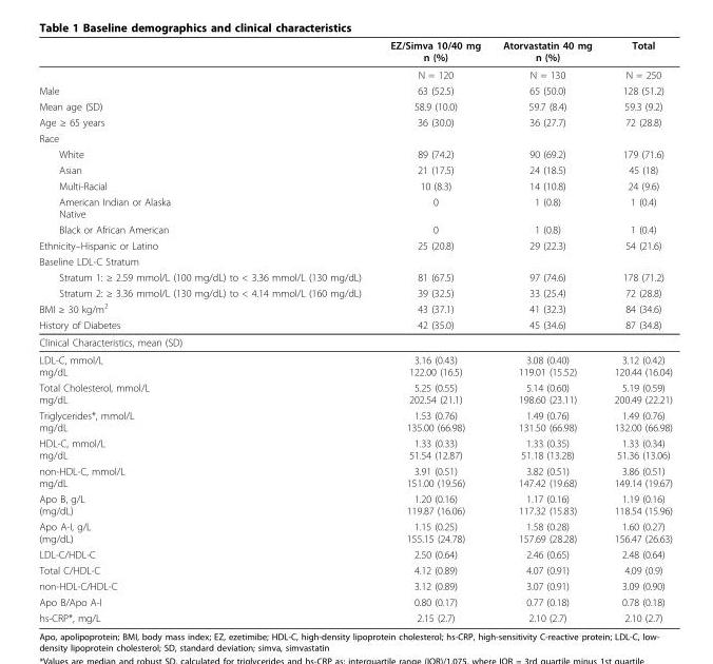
<table><thead><tr><td></td><td>EZ/Simva 10/40 mg n (%)</td><td>Atorvastatin 40 mg n (%)</td><td>Total</td></tr></thead><tbody><tr><td></td><td>N = 120</td><td>N = 130</td><td>N = 250</td></tr><tr><td>Male</td><td>63 (52.5)</td><td>65 (50.0)</td><td>128 (51.2)</td></tr><tr><td>Mean age (SD)</td><td>58.9 (10.0)</td><td>59.7 (8.4)</td><td>59.3 (9.2)</td></tr><tr><td>Age ≥ 65 years</td><td>36 (30.0)</td><td>36 (27.7)</td><td>72 (28.8)</td></tr><tr><td colspan="4">Race</td></tr><tr><td>White</td><td>89 (74.2)</td><td>90 (69.2)</td><td>179 (71.6)</td></tr><tr><td>Asian</td><td>21 (17.5)</td><td>24 (18.5)</td><td>45 (18)</td></tr><tr><td>Multi-Racial</td><td>10 (8.3)</td><td>14 (10.8)</td><td>24 (9.6)</td></tr><tr><td>American Indian or Alaska Native</td><td>0</td><td>1 (0.8)</td><td>1 (0.4)</td></tr><tr><td>Black or African American</td><td>0</td><td>1 (0.8)</td><td>1 (0.4)</td></tr><tr><td>Ethnicity–Hispanic or Latino</td><td>25 (20.8)</td><td>29 (22.3)</td><td>54 (21.6)</td></tr><tr><td colspan="4">Baseline LDL-C Stratum</td></tr><tr><td>Stratum 1: ≥ 2.59 mmol/L (100 mg/dL) to &lt; 3.36 mmol/L (130 mg/dL)</td><td>81 (67.5)</td><td>97 (74.6)</td><td>178 (71.2)</td></tr><tr><td>Stratum 2: ≥ 3.36 mmol/L (130 mg/dL) to &lt; 4.14 mmol/L (160 mg/dL)</td><td>39 (32.5)</td><td>33 (25.4)</td><td>72 (28.8)</td></tr><tr><td>BMI ≥ 30 kg/m<sup>2</sup></td><td>43 (37.1)</td><td>41 (32.3)</td><td>84 (34.6)</td></tr><tr><td>History of Diabetes</td><td>42 (35.0)</td><td>45 (34.6)</td><td>87 (34.8)</td></tr><tr><td colspan="4">Clinical Characteristics, mean (SD)</td></tr><tr><td>LDL-C, mmol/L mg/dL</td><td>3.16 (0.43) 122.00 (16.5)</td><td>3.08 (0.40) 119.01 (15.52)</td><td>3.12 (0.42) 120.44 (16.04)</td></tr><tr><td>Total Cholesterol, mmol/L mg/dL</td><td>5.25 (0.55) 202.54 (21.1)</td><td>5.14 (0.60) 198.60 (23.11)</td><td>5.19 (0.59) 200.49 (22.21)</td></tr><tr><td>Triglycerides*, mmol/L mg/dL</td><td>1.53 (0.76) 135.00 (66.98)</td><td>1.49 (0.76) 131.50 (66.98)</td><td>1.49 (0.76) 132.00 (66.98)</td></tr><tr><td>HDL-C, mmol/L mg/dL</td><td>1.33 (0.33) 51.54 (12.87)</td><td>1.33 (0.35) 51.18 (13.28)</td><td>1.33 (0.34) 51.36 (13.06)</td></tr><tr><td>non-HDL-C, mmol/L mg/dL</td><td>3.91 (0.51) 151.00 (19.56)</td><td>3.82 (0.51) 147.42 (19.68)</td><td>3.86 (0.51) 149.14 (19.67)</td></tr><tr><td>Apo B, g/L (mg/dL)</td><td>1.20 (0.16) 119.87 (16.06)</td><td>1.17 (0.16) 117.32 (15.83)</td><td>1.19 (0.16) 118.54 (15.96)</td></tr><tr><td>Apo A-I, g/L (mg/dL)</td><td>1.15 (0.25) 155.15 (24.78)</td><td>1.58 (0.28) 157.69 (28.28)</td><td>1.60 (0.27) 156.47 (26.63)</td></tr><tr><td>LDL-C/HDL-C</td><td>2.50 (0.64)</td><td>2.46 (0.65)</td><td>2.48 (0.64)</td></tr><tr><td>Total C/HDL-C</td><td>4.12 (0.89)</td><td>4.07 (0.91)</td><td>4.09 (0.9)</td></tr><tr><td>non-HDL-C/HDL-C</td><td>3.12 (0.89)</td><td>3.07 (0.91)</td><td>3.09 (0.90)</td></tr><tr><td>Apo B/Apo A-I</td><td>0.80 (0.17)</td><td>0.77 (0.18)</td><td>0.78 (0.18)</td></tr><tr><td>hs-CRP*, mg/L</td><td>2.15 (2.7)</td><td>2.10 (2.7)</td><td>2.10 (2.7)</td></tr></tbody></table>